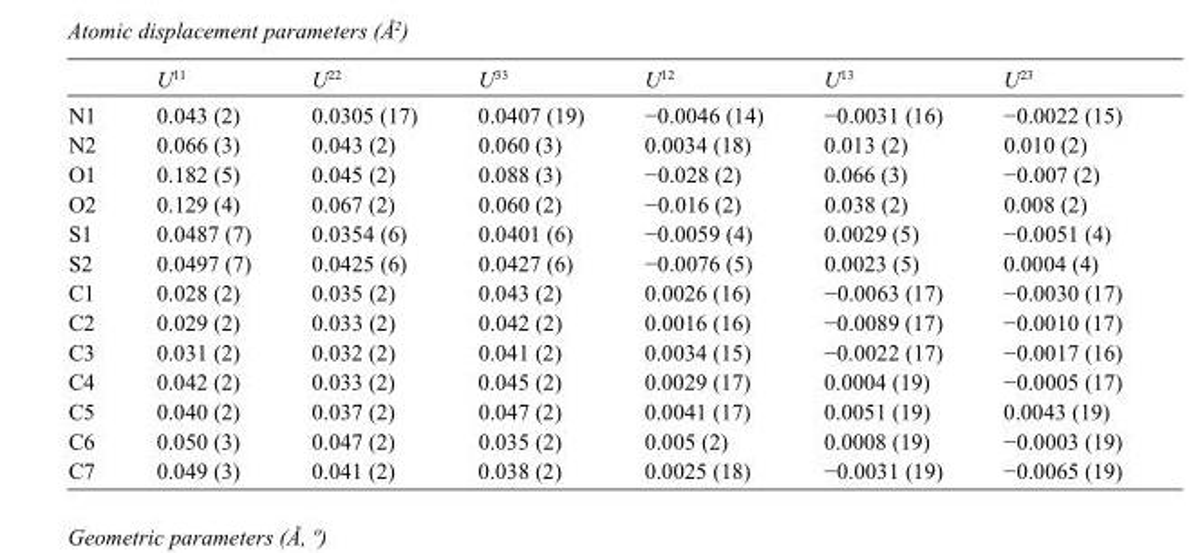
<table><thead><tr><td></td><td>U<sup>11</sup></td><td>U<sup>22</sup></td><td>U<sup>33</sup></td><td>U<sup>12</sup></td><td>U<sup>13</sup></td><td>U<sup>23</sup></td></tr></thead><tbody><tr><td>N1</td><td>0.043 (2)</td><td>0.0305 (17)</td><td>0.0407 (19)</td><td>−0.0046 (14)</td><td>−0.0031 (16)</td><td>−0.0022 (15)</td></tr><tr><td>N2</td><td>0.066 (3)</td><td>0.043 (2)</td><td>0.060 (3)</td><td>0.0034 (18)</td><td>0.013 (2)</td><td>0.010 (2)</td></tr><tr><td>O1</td><td>0.182 (5)</td><td>0.045 (2)</td><td>0.088 (3)</td><td>−0.028 (2)</td><td>0.066 (3)</td><td>−0.007 (2)</td></tr><tr><td>O2</td><td>0.129 (4)</td><td>0.067 (2)</td><td>0.060 (2)</td><td>−0.016 (2)</td><td>0.038 (2)</td><td>0.008 (2)</td></tr><tr><td>S1</td><td>0.0487 (7)</td><td>0.0354 (6)</td><td>0.0401 (6)</td><td>−0.0059 (4)</td><td>0.0029 (5)</td><td>−0.0051 (4)</td></tr><tr><td>S2</td><td>0.0497 (7)</td><td>0.0425 (6)</td><td>0.0427 (6)</td><td>−0.0076 (5)</td><td>0.0023 (5)</td><td>0.0004 (4)</td></tr><tr><td>C1</td><td>0.028 (2)</td><td>0.035 (2)</td><td>0.043 (2)</td><td>0.0026 (16)</td><td>−0.0063 (17)</td><td>−0.0030 (17)</td></tr><tr><td>C2</td><td>0.029 (2)</td><td>0.033 (2)</td><td>0.042 (2)</td><td>0.0016 (16)</td><td>−0.0089 (17)</td><td>−0.0010 (17)</td></tr><tr><td>C3</td><td>0.031 (2)</td><td>0.032 (2)</td><td>0.041 (2)</td><td>0.0034 (15)</td><td>−0.0022 (17)</td><td>−0.0017 (16)</td></tr><tr><td>C4</td><td>0.042 (2)</td><td>0.033 (2)</td><td>0.045 (2)</td><td>0.0029 (17)</td><td>0.0004 (19)</td><td>−0.0005 (17)</td></tr><tr><td>C5</td><td>0.040 (2)</td><td>0.037 (2)</td><td>0.047 (2)</td><td>0.0041 (17)</td><td>0.0051 (19)</td><td>0.0043 (19)</td></tr><tr><td>C6</td><td>0.050 (3)</td><td>0.047 (2)</td><td>0.035 (2)</td><td>0.005 (2)</td><td>0.0008 (19)</td><td>−0.0003 (19)</td></tr><tr><td>C7</td><td>0.049 (3)</td><td>0.041 (2)</td><td>0.038 (2)</td><td>0.0025 (18)</td><td>−0.0031 (19)</td><td>−0.0065 (19)</td></tr></tbody></table>